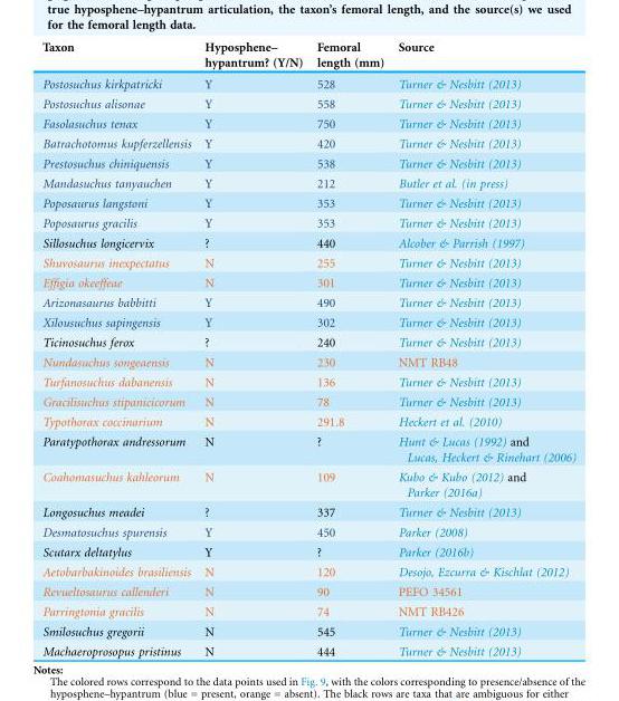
<table><thead><tr><td>Taxon</td><td>Hyposphene– hypantrum? (Y/N)</td><td>Femoral length (mm)</td><td>Source</td></tr></thead><tbody><tr><td>Postosuchus kirkpatricki</td><td>Y</td><td>528</td><td>Turner &amp; Nesbitt (2013)</td></tr><tr><td>Postosuchus alisonae</td><td>Y</td><td>558</td><td>Turner &amp; Nesbitt (2013)</td></tr><tr><td>Fasolasuchus tenax</td><td>Y</td><td>750</td><td>Turner &amp; Nesbitt (2013)</td></tr><tr><td>Batrachotomus kupferzellensis</td><td>Y</td><td>420</td><td>Turner &amp; Nesbitt (2013)</td></tr><tr><td>Prestosuchus chiniquensis</td><td>Y</td><td>538</td><td>Turner &amp; Nesbitt (2013)</td></tr><tr><td>Mandasuchus tanyauchen</td><td>Y</td><td>212</td><td>Butler et al. (in press)</td></tr><tr><td>Poposaurus langstoni</td><td>Y</td><td>353</td><td>Turner &amp; Nesbitt (2013)</td></tr><tr><td>Poposaurus gracilis</td><td>Y</td><td>353</td><td>Turner &amp; Nesbitt (2013)</td></tr><tr><td>Sillosuchus longicervix</td><td>?</td><td>440</td><td>Alcober &amp; Parrish (1997)</td></tr><tr><td>Shuvosaurus inexpectatus</td><td>N</td><td>255</td><td>Turner &amp; Nesbitt (2013)</td></tr><tr><td>Effigia okeeffeae</td><td>N</td><td>301</td><td>Turner &amp; Nesbitt (2013)</td></tr><tr><td>Arizonasaurus babbitti</td><td>Y</td><td>490</td><td>Turner &amp; Nesbitt (2013)</td></tr><tr><td>Xilousuchus sapingensis</td><td>Y</td><td>302</td><td>Turner &amp; Nesbitt (2013)</td></tr><tr><td>Ticinosuchus ferox</td><td>?</td><td>240</td><td>Turner &amp; Nesbitt (2013)</td></tr><tr><td>Nundasuchus songeaensis</td><td>N</td><td>230</td><td>NMT RB48</td></tr><tr><td>Turfanosuchus dabanensis</td><td>N</td><td>136</td><td>Turner &amp; Nesbitt (2013)</td></tr><tr><td>Gracilisuchus stipanicicorum</td><td>N</td><td>78</td><td>Turner &amp; Nesbitt (2013)</td></tr><tr><td>Typothorax coccinarium</td><td>N</td><td>291.8</td><td>Heckert et al. (2010)</td></tr><tr><td>Paratypothorax andressorum</td><td>N</td><td>?</td><td>Hunt &amp; Lucas (1992) and Lucas, Heckert &amp; Rinehart (2006)</td></tr><tr><td>Coahomasuchus kahleorum</td><td>N</td><td>109</td><td>Kubo &amp; Kubo (2012) and Parker (2016a)</td></tr><tr><td>Longosuchus meadei</td><td>?</td><td>337</td><td>Turner &amp; Nesbitt (2013)</td></tr><tr><td>Desmatosuchus spurensis</td><td>Y</td><td>450</td><td>Parker (2008)</td></tr><tr><td>Scutarx deltatylus</td><td>Y</td><td>?</td><td>Parker (2016b)</td></tr><tr><td>Aetobarbakinoides brasiliensis</td><td>N</td><td>120</td><td>Desojo, Ezcurra &amp; Kischlat (2012)</td></tr><tr><td>Revueltosaurus callenderi</td><td>N</td><td>90</td><td>PEFO 34561</td></tr><tr><td>Parringtonia gracilis</td><td>N</td><td>74</td><td>NMT RB426</td></tr><tr><td>Smilosuchus gregorii</td><td>N</td><td>545</td><td>Turner &amp; Nesbitt (2013)</td></tr><tr><td>Machaeroprosopus pristinus</td><td>N</td><td>444</td><td>Turner &amp; Nesbitt (2013)</td></tr></tbody></table>